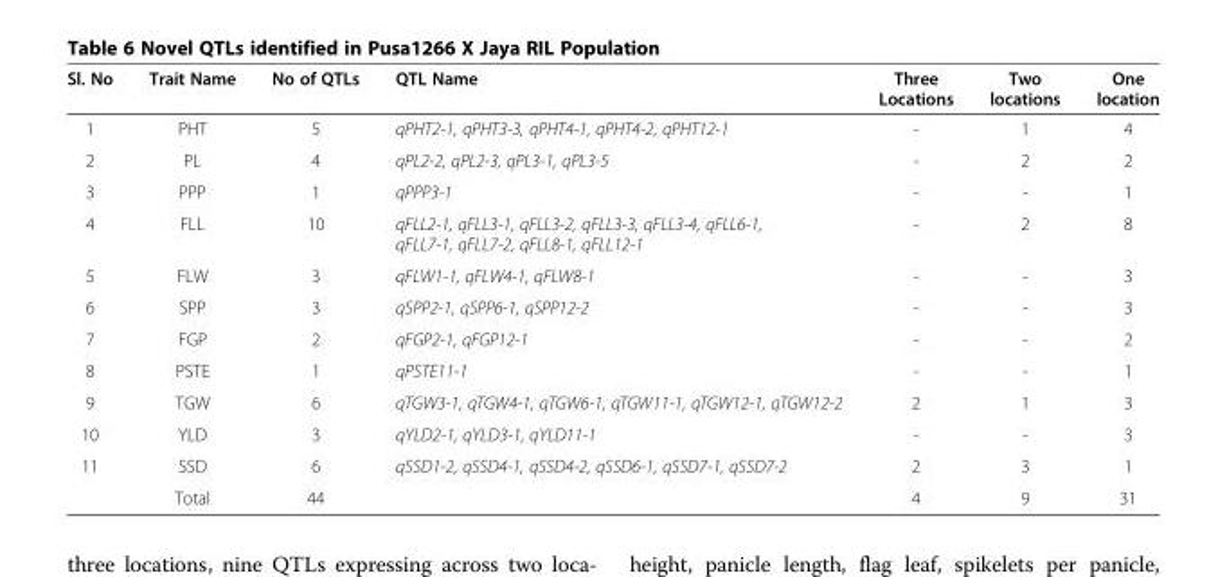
<table><thead><tr><td>Sl. No</td><td>Trait Name</td><td>No of QTLs</td><td>QTL Name</td><td>Three Locations</td><td>Two locations</td><td>One location</td></tr></thead><tbody><tr><td>1</td><td>PHT</td><td>5</td><td>qPHT2-1, qPHT3-3, qPHT4-1, qPHT4-2, qPHT12-1</td><td>-</td><td>1</td><td>4</td></tr><tr><td>2</td><td>PL</td><td>4</td><td>qPL2-2, qPL2-3, qPL3-1, qPL3-5</td><td>-</td><td>2</td><td>2</td></tr><tr><td>3</td><td>PPP</td><td>1</td><td>qPPP3-1</td><td>-</td><td>-</td><td>1</td></tr><tr><td>4</td><td>FLL</td><td>10</td><td>qFLL2-1, qFLL3-1, qFLL3-2, qFLL3-3, qFLL3-4, qFLL6-1, qFLL7-1, qFLL7-2, qFLL8-1, qFLL12-1</td><td>-</td><td>2</td><td>8</td></tr><tr><td>5</td><td>FLW</td><td>3</td><td>qFLW1-1, qFLW4-1, qFLW8-1</td><td>-</td><td>-</td><td>3</td></tr><tr><td>6</td><td>SPP</td><td>3</td><td>qSPP2-1, qSPP6-1, qSPP12-2</td><td>-</td><td>-</td><td>3</td></tr><tr><td>7</td><td>FGP</td><td>2</td><td>qFGP2-1, qFGP12-1</td><td>-</td><td>-</td><td>2</td></tr><tr><td>8</td><td>PSTE</td><td>1</td><td>qPSTE11-1</td><td>-</td><td>-</td><td>1</td></tr><tr><td>9</td><td>TGW</td><td>6</td><td>qTGW3-1, qTGW4-1, qTGW6-1, qTGW11-1, qTGW12-1, qTGW12-2</td><td>2</td><td>1</td><td>3</td></tr><tr><td>10</td><td>YLD</td><td>3</td><td>qYLD2-1, qYLD3-1, qYLD11-1</td><td>-</td><td>-</td><td>3</td></tr><tr><td rowspan="2">11</td><td>SSD</td><td>6</td><td>qSSD1-2, qSSD4-1, qSSD4-2, qSSD6-1, qSSD7-1, qSSD7-2</td><td>2</td><td>3</td><td>1</td></tr><tr><td>Total</td><td>44</td><td></td><td>4</td><td>9</td><td>31</td></tr></tbody></table>